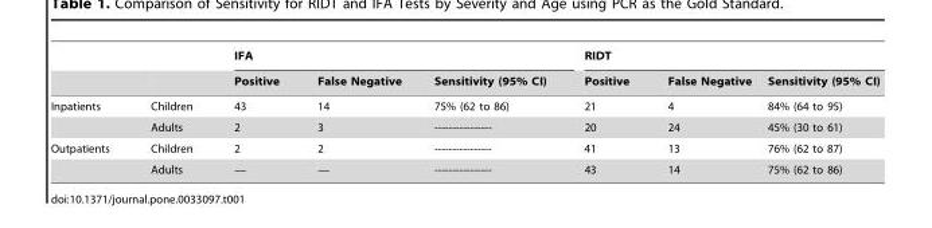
<table><thead><tr><td rowspan="2"></td><td rowspan="2"></td><td colspan="3">IFA</td><td colspan="3">RIDT</td></tr><tr><td>Positive</td><td>False Negative</td><td>Sensitivity (95% CI)</td><td>Positive</td><td>False Negative</td><td>Sensitivity (95% CI)</td></tr></thead><tbody><tr><td rowspan="2">Inpatients</td><td>Children</td><td>43</td><td>14</td><td>75% (62 to 86)</td><td>21</td><td>4</td><td>84% (64 to 95)</td></tr><tr><td>Adults</td><td>2</td><td>3</td><td>----------------</td><td>20</td><td>24</td><td>45% (30 to 61)</td></tr><tr><td rowspan="2">Outpatients</td><td>Children</td><td>2</td><td>2</td><td>----------------</td><td>41</td><td>13</td><td>76% (62 to 87)</td></tr><tr><td>Adults</td><td>—</td><td>—</td><td>----------------</td><td>43</td><td>14</td><td>75% (62 to 86)</td></tr></tbody></table>